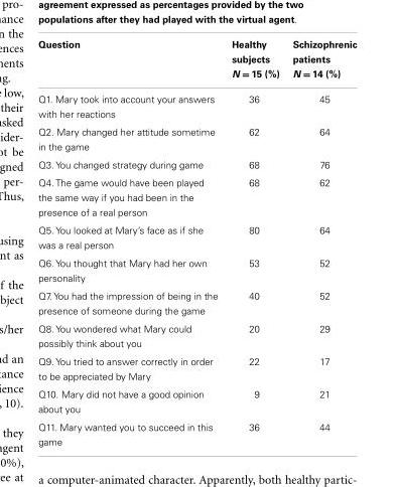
<table><thead><tr><td>Question</td><td>Healthy subjects N = 15 (%)</td><td>Schizophrenic patients N = 14 (%)</td></tr></thead><tbody><tr><td>Q1. Mary took into account your answers with her reactions</td><td>36</td><td>45</td></tr><tr><td>Q2. Mary changed her attitude sometime in the game</td><td>62</td><td>64</td></tr><tr><td>Q3. You changed strategy during game</td><td>68</td><td>76</td></tr><tr><td>Q4. The game would have been played the same way if you had been in the presence of a real person</td><td>68</td><td>62</td></tr><tr><td>Q5. You looked at Mary’s face as if she was a real person</td><td>80</td><td>64</td></tr><tr><td>Q6. You thought that Mary had her own personality</td><td>53</td><td>52</td></tr><tr><td>Q7. You had the impression of being in the presence of someone during the game</td><td>40</td><td>52</td></tr><tr><td>Q8. You wondered what Mary could possibly think about you</td><td>20</td><td>29</td></tr><tr><td>Q9. You tried to answer correctly in order to be appreciated by Mary</td><td>22</td><td>17</td></tr><tr><td>Q10. Mary did not have a good opinion about you</td><td>9</td><td>21</td></tr><tr><td>Q11. Mary wanted you to succeed in this game</td><td>36</td><td>44</td></tr></tbody></table>